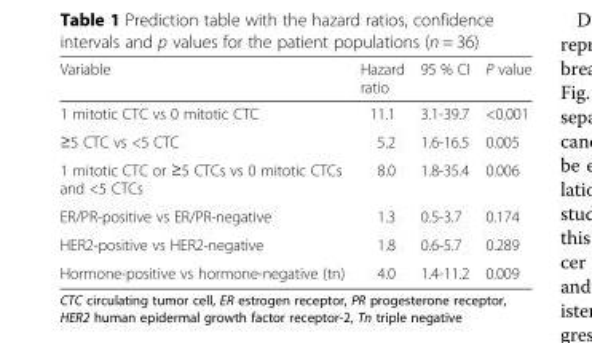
<table><thead><tr><td>Variable</td><td>Hazard ratio</td><td>95 % CI</td><td>P value</td></tr></thead><tbody><tr><td>1 mitotic CTC vs 0 mitotic CTC</td><td>11.1</td><td>3.1-39.7</td><td>&lt;0.001</td></tr><tr><td>≥5 CTC vs &lt;5 CTC</td><td>5.2</td><td>1.6-16.5</td><td>0.005</td></tr><tr><td>1 mitotic CTC or ≥5 CTCs vs 0 mitotic CTCs and &lt;5 CTCs</td><td>8.0</td><td>1.8-35.4</td><td>0.006</td></tr><tr><td>ER/PR-positive vs ER/PR-negative</td><td>1.3</td><td>0.5-3.7</td><td>0.174</td></tr><tr><td>HER2-positive vs HER2-negative</td><td>1.8</td><td>0.6-5.7</td><td>0.289</td></tr><tr><td>Hormone-positive vs hormone-negative (tn)</td><td>4.0</td><td>1.4-11.2</td><td>0.009</td></tr></tbody></table>